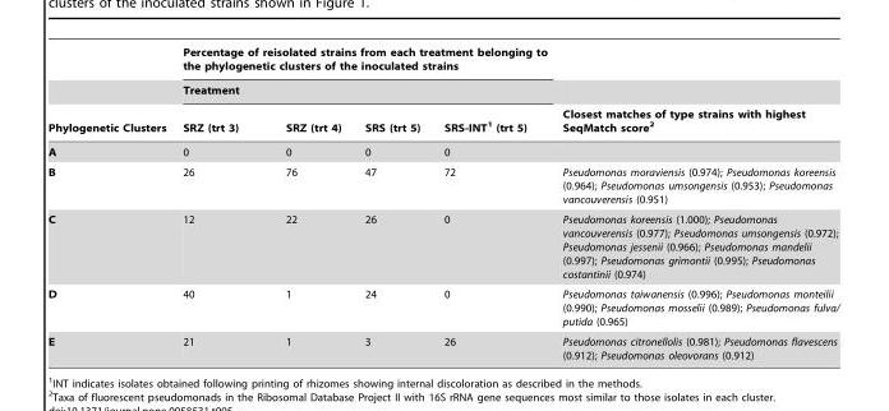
<table><thead><tr><td rowspan="3">Phylogenetic Clusters</td><td rowspan="2" colspan="4">Percentage of reisolated strains from each treatment belonging to the phylogenetic clusters of the inoculated strains Treatment</td><td rowspan="3">Closest matches of type strains with highest SeqMatch score<sup>2</sup></td></tr><tr></tr><tr><td>SRZ (trt 3)</td><td>SRZ (trt 4)</td><td>SRS (trt 5)</td><td>SRS-INT<sup>1</sup> (trt 5)</td></tr></thead><tbody><tr><td>A</td><td>0</td><td>0</td><td>0</td><td>0</td><td></td></tr><tr><td>B</td><td>26</td><td>76</td><td>47</td><td>72</td><td>Pseudomonas moraviensis (0.974); Pseudomonas koreensis (0.964); Pseudomonas umsongensis (0.953); Pseudomonas vancouverensis (0.951)</td></tr><tr><td>C</td><td>12</td><td>22</td><td>26</td><td>0</td><td>Pseudomonas koreensis (1.000); Pseudomonas vancouverensis (0.977); Pseudomonas umsongensis (0.972); Pseudomonas jessenii (0.966); Pseudomonas mandelii (0.997); Pseudomonas grimontii (0.995); Pseudomonas costantinii (0.974)</td></tr><tr><td>D</td><td>40</td><td>1</td><td>24</td><td>0</td><td>Pseudomonas taiwanensis (0.996); Pseudomonas monteilii (0.990); Pseudomonas mosselii (0.989); Pseudomonas fulva/ putida (0.965)</td></tr><tr><td>E</td><td>21</td><td>1</td><td>3</td><td>26</td><td>Pseudomonas citronellolis (0.981); Pseudomonas flavescens (0.912); Pseudomonas oleovorans (0.912)</td></tr></tbody></table>